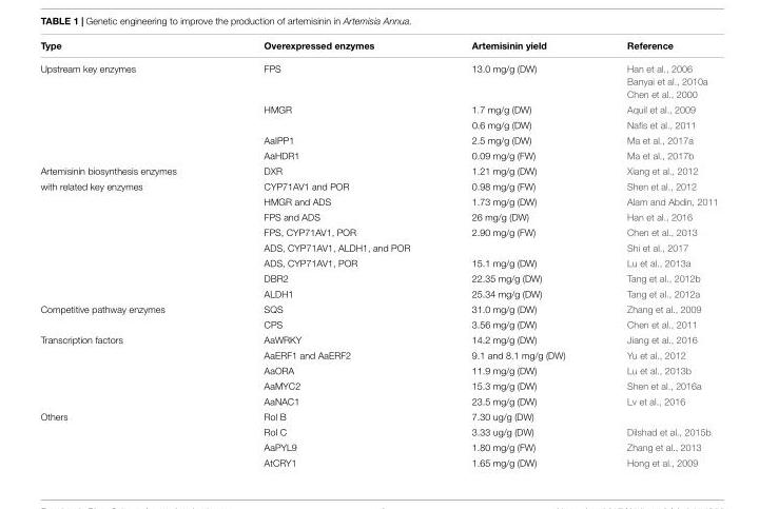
<table><thead><tr><td>Type</td><td>Overexpressed enzymes</td><td>Artemisinin yield</td><td>Reference</td></tr></thead><tbody><tr><td rowspan="5">Upstream key enzymes</td><td>FPS</td><td>13.0 mg/g (DW)</td><td>Han et al., 2006 Banyai et al., 2010a Chen et al., 2000</td></tr><tr><td>HMGR</td><td>1.7 mg/g (DW)</td><td>Aquil et al., 2009</td></tr><tr><td></td><td>0.6 mg/g (DW)</td><td>Nafis et al., 2011</td></tr><tr><td>AaIPP1</td><td>2.5 mg/g (DW)</td><td>Ma et al., 2017a</td></tr><tr><td>AaHDR1</td><td>0.09 mg/g (FW)</td><td>Ma et al., 2017b</td></tr><tr><td>Artemisinin biosynthesis enzymes</td><td>DXR</td><td>1.21 mg/g (DW)</td><td>Xiang et al., 2012</td></tr><tr><td rowspan="8">with related key enzymes</td><td>CYP71AV1 and POR</td><td>0.98 mg/g (FW)</td><td>Shen et al., 2012</td></tr><tr><td>HMGR and ADS</td><td>1.73 mg/g (DW)</td><td>Alam and Abdin, 2011</td></tr><tr><td>FPS and ADS</td><td>26 mg/g (DW)</td><td>Han et al., 2016</td></tr><tr><td>FPS, CYP71AV1, POR</td><td>2.90 mg/g (FW)</td><td>Chen et al., 2013</td></tr><tr><td>ADS, CYP71AV1, ALDH1, and POR</td><td></td><td>Shi et al., 2017</td></tr><tr><td>ADS, CYP71AV1, POR</td><td>15.1 mg/g (DW)</td><td>Lu et al., 2013a</td></tr><tr><td>DBR2</td><td>22.35 mg/g (DW)</td><td>Tang et al., 2012b</td></tr><tr><td>ALDH1</td><td>25.34 mg/g (DW)</td><td>Tang et al., 2012a</td></tr><tr><td rowspan="2">Competitive pathway enzymes</td><td>SQS</td><td>31.0 mg/g (DW)</td><td>Zhang et al., 2009</td></tr><tr><td>CPS</td><td>3.56 mg/g (DW)</td><td>Chen et al., 2011</td></tr><tr><td rowspan="5">Transcription factors</td><td>AaWRKY</td><td>14.2 mg/g (DW)</td><td>Jiang et al., 2016</td></tr><tr><td>AaERF1 and AaERF2</td><td>9.1 and 8.1 mg/g (DW)</td><td>Yu et al., 2012</td></tr><tr><td>AaORA</td><td>11.9 mg/g (DW)</td><td>Lu et al., 2013b</td></tr><tr><td>AaMYC2</td><td>15.3 mg/g (DW)</td><td>Shen et al., 2016a</td></tr><tr><td>AaNAC1</td><td>23.5 mg/g (DW)</td><td>Lv et al., 2016</td></tr><tr><td rowspan="4">Others</td><td>Rol B</td><td>7.30 ug/g (DW)</td><td></td></tr><tr><td>Rol C</td><td>3.33 ug/g (DW)</td><td>Dilshad et al., 2015b</td></tr><tr><td>AaPYL9</td><td>1.80 mg/g (FW)</td><td>Zhang et al., 2013</td></tr><tr><td>AtCRY1</td><td>1.65 mg/g (DW)</td><td>Hong et al., 2009</td></tr></tbody></table>